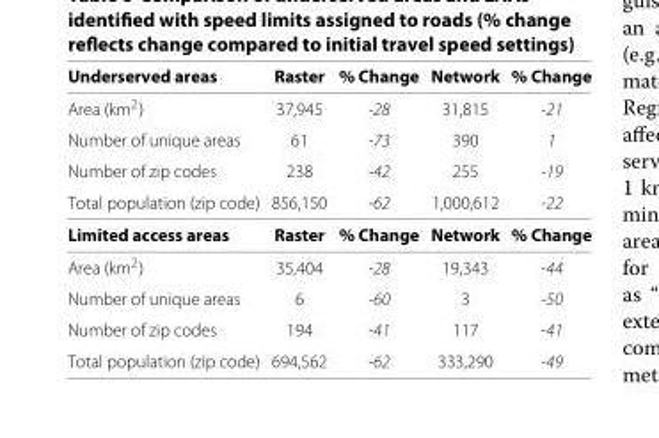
<table><thead><tr><td>Underserved areas</td><td>Raster</td><td>% Change</td><td>Network</td><td>% Change</td></tr></thead><tbody><tr><td>Area (km<sup>2</sup>)</td><td>37,945</td><td>-28</td><td>31,815</td><td>-21</td></tr><tr><td>Number of unique areas</td><td>61</td><td>-73</td><td>390</td><td>1</td></tr><tr><td>Number of zip codes</td><td>238</td><td>-42</td><td>255</td><td>-19</td></tr><tr><td>Total population (zip code)</td><td>856,150</td><td>-62</td><td>1,000,612</td><td>-22</td></tr><tr><td>Limited access areas</td><td>Raster</td><td>% Change</td><td>Network</td><td>% Change</td></tr><tr><td>Area (km<sup>2</sup>)</td><td>35,404</td><td>-28</td><td>19,343</td><td>-44</td></tr><tr><td>Number of unique areas</td><td>6</td><td>-60</td><td>3</td><td>-50</td></tr><tr><td>Number of zip codes</td><td>194</td><td>-41</td><td>117</td><td>-41</td></tr><tr><td>Total population (zip code)</td><td>694,562</td><td>-62</td><td>333,290</td><td>-49</td></tr></tbody></table>